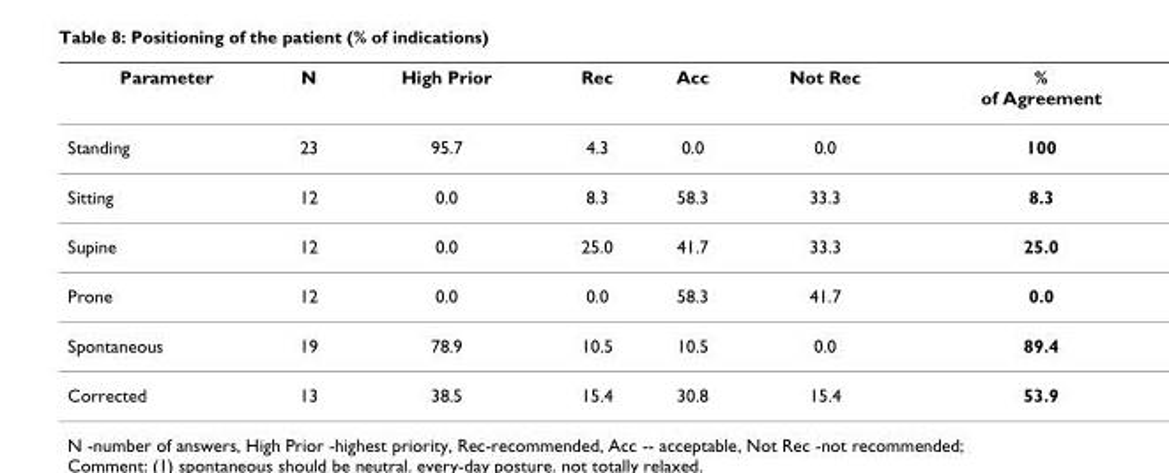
<table><thead><tr><td>Parameter</td><td>N</td><td>High Prior</td><td>Rec</td><td>Acc</td><td>Not Rec</td><td>% of Agreement</td></tr></thead><tbody><tr><td>Standing</td><td>23</td><td>95.7</td><td>4.3</td><td>0.0</td><td>0.0</td><td>100</td></tr><tr><td>Sitting</td><td>12</td><td>0.0</td><td>8.3</td><td>58.3</td><td>33.3</td><td>8.3</td></tr><tr><td>Supine</td><td>12</td><td>0.0</td><td>25.0</td><td>41.7</td><td>33.3</td><td>25.0</td></tr><tr><td>Prone</td><td>12</td><td>0.0</td><td>0.0</td><td>58.3</td><td>41.7</td><td>0.0</td></tr><tr><td>Spontaneous</td><td>19</td><td>78.9</td><td>10.5</td><td>10.5</td><td>0.0</td><td>89.4</td></tr><tr><td>Corrected</td><td>13</td><td>38.5</td><td>15.4</td><td>30.8</td><td>15.4</td><td>53.9</td></tr></tbody></table>